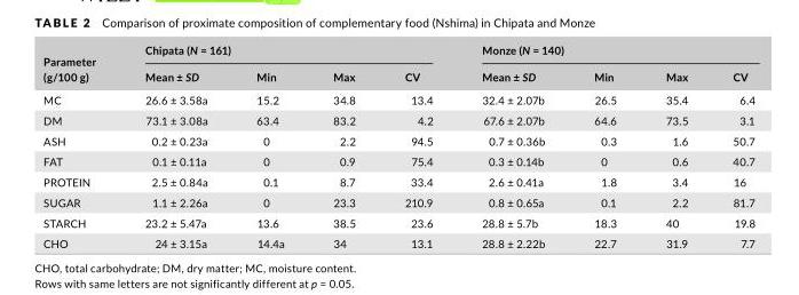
<table><thead><tr><td rowspan="2">Parameter (g/100 g)</td><td colspan="4">Chipata (N = 161)</td><td colspan="4">Monze (N = 140)</td></tr><tr><td>Mean ± SD</td><td>Min</td><td>Max</td><td>CV</td><td>Mean ± SD</td><td>Min</td><td>Max</td><td>CV</td></tr></thead><tbody><tr><td>MC</td><td>26.6 ± 3.58a</td><td>15.2</td><td>34.8</td><td>13.4</td><td>32.4 ± 2.07b</td><td>26.5</td><td>35.4</td><td>6.4</td></tr><tr><td>DM</td><td>73.1 ± 3.08a</td><td>63.4</td><td>83.2</td><td>4.2</td><td>67.6 ± 2.07b</td><td>64.6</td><td>73.5</td><td>3.1</td></tr><tr><td>ASH</td><td>0.2 ± 0.23a</td><td>0</td><td>2.2</td><td>94.5</td><td>0.7 ± 0.36b</td><td>0.3</td><td>1.6</td><td>50.7</td></tr><tr><td>FAT</td><td>0.1 ± 0.11a</td><td>0</td><td>0.9</td><td>75.4</td><td>0.3 ± 0.14b</td><td>0</td><td>0.6</td><td>40.7</td></tr><tr><td>PROTEIN</td><td>2.5 ± 0.84a</td><td>0.1</td><td>8.7</td><td>33.4</td><td>2.6 ± 0.41a</td><td>1.8</td><td>3.4</td><td>16</td></tr><tr><td>SUGAR</td><td>1.1 ± 2.26a</td><td>0</td><td>23.3</td><td>210.9</td><td>0.8 ± 0.65a</td><td>0.1</td><td>2.2</td><td>81.7</td></tr><tr><td>STARCH</td><td>23.2 ± 5.47a</td><td>13.6</td><td>38.5</td><td>23.6</td><td>28.8 ± 5.7b</td><td>18.3</td><td>40</td><td>19.8</td></tr><tr><td>CHO</td><td>24 ± 3.15a</td><td>14.4a</td><td>34</td><td>13.1</td><td>28.8 ± 2.22b</td><td>22.7</td><td>31.9</td><td>7.7</td></tr></tbody></table>